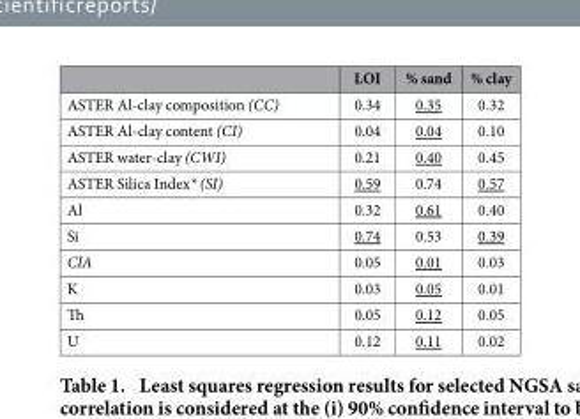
<table><thead><tr><td></td><td>LOI</td><td>% sand</td><td>% clay</td></tr></thead><tbody><tr><td>ASTER Al-clay composition (CC)</td><td>0.34</td><td>0.35</td><td>0.32</td></tr><tr><td>ASTER Al-clay content (CI)</td><td>0.04</td><td>0.04</td><td>0.10</td></tr><tr><td>ASTER water-clay (CWI)</td><td>0.21</td><td>0.40</td><td>0.45</td></tr><tr><td>ASTER Silica Index* (SI)</td><td>0.59</td><td>0.74</td><td>0.57</td></tr><tr><td>Al</td><td>0.32</td><td>0.61</td><td>0.40</td></tr><tr><td>Si</td><td>0.74</td><td>0.53</td><td>0.39</td></tr><tr><td>CIA</td><td>0.05</td><td>0.01</td><td>0.03</td></tr><tr><td>K</td><td>0.03</td><td>0.05</td><td>0.01</td></tr><tr><td>Th</td><td>0.05</td><td>0.12</td><td>0.05</td></tr><tr><td>U</td><td>0.12</td><td>0.11</td><td>0.02</td></tr></tbody></table>